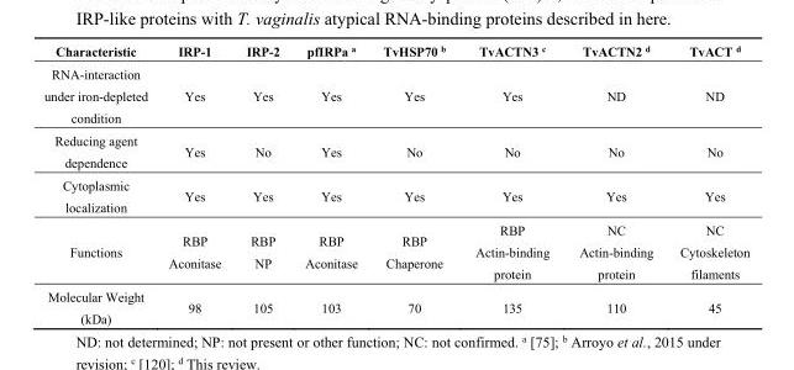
<table><thead><tr><td>Characteristic</td><td>IRP-1</td><td>IRP-2</td><td>pfIRPa <sup>a</sup></td><td>TvHSP70 <sup>b</sup></td><td>TvACTN3 <sup>c</sup></td><td>TvACTN2 <sup>d</sup></td><td>TvACT <sup>d</sup></td></tr></thead><tbody><tr><td>RNA-interaction under iron-depleted condition</td><td>Yes</td><td>Yes</td><td>Yes</td><td>Yes</td><td>Yes</td><td>ND</td><td>ND</td></tr><tr><td>Reducing agent dependence</td><td>Yes</td><td>No</td><td>Yes</td><td>No</td><td>No</td><td>No</td><td>No</td></tr><tr><td>Cytoplasmic localization</td><td>Yes</td><td>Yes</td><td>Yes</td><td>Yes</td><td>Yes</td><td>Yes</td><td>Yes</td></tr><tr><td>Functions</td><td>RBP Aconitase</td><td>RBP NP</td><td>RBP Aconitase</td><td>RBP Chaperone</td><td>RBP Actin-binding protein</td><td>NC Actin-binding protein</td><td>NC Cytoskeleton filaments</td></tr><tr><td>Molecular Weight (kDa)</td><td>98</td><td>105</td><td>103</td><td>70</td><td>135</td><td>110</td><td>45</td></tr></tbody></table>